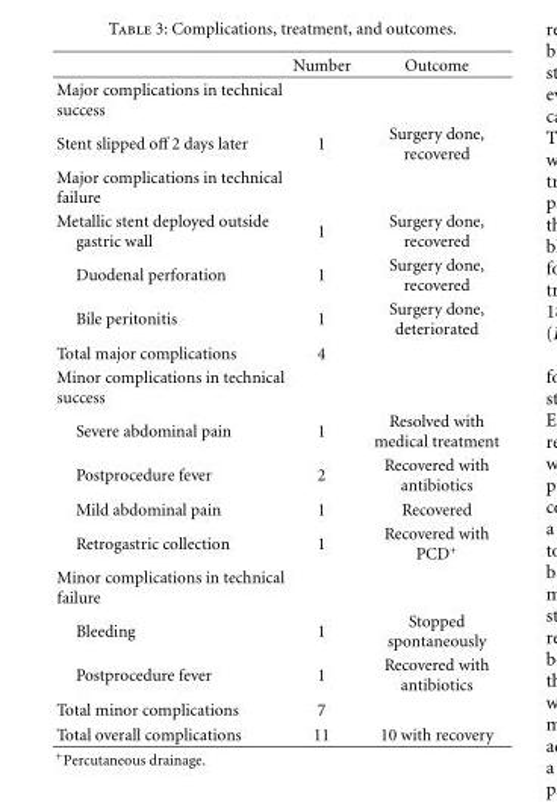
<table><thead><tr><td></td><td>Number</td><td>Outcome</td></tr></thead><tbody><tr><td colspan="3">Major complications in technical success</td></tr><tr><td>Stent slipped off 2 days later</td><td>1</td><td>Surgery done, recovered</td></tr><tr><td colspan="3">Major complications in technical failure</td></tr><tr><td>Metallic stent deployed outside gastric wall</td><td>1</td><td>Surgery done, recovered</td></tr><tr><td>Duodenal perforation</td><td>1</td><td>Surgery done, recovered</td></tr><tr><td>Bile peritonitis</td><td>1</td><td>Surgery done, deteriorated</td></tr><tr><td>Total major complications</td><td>4</td><td></td></tr><tr><td colspan="3">Minor complications in technical success</td></tr><tr><td>Severe abdominal pain</td><td>1</td><td>Resolved with medical treatment</td></tr><tr><td>Postprocedure fever</td><td>2</td><td>Recovered with antibiotics</td></tr><tr><td>Mild abdominal pain</td><td>1</td><td>Recovered</td></tr><tr><td>Retrogastric collection</td><td>1</td><td>Recovered with PCD<sup>+</sup></td></tr><tr><td colspan="3">Minor complications in technical failure</td></tr><tr><td>Bleeding</td><td>1</td><td>Stopped spontaneously</td></tr><tr><td>Postprocedure fever</td><td>1</td><td>Recovered with antibiotics</td></tr><tr><td>Total minor complications</td><td>7</td><td></td></tr><tr><td>Total overall complications</td><td>11</td><td>10 with recovery</td></tr></tbody></table>